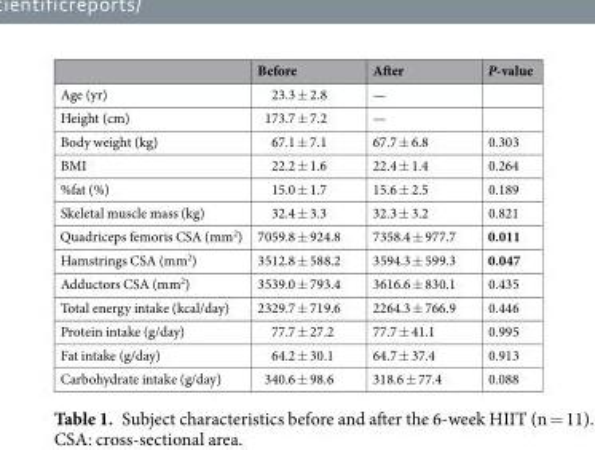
<table><thead><tr><td></td><td>Before</td><td>After</td><td>P-value</td></tr></thead><tbody><tr><td>Age (yr)</td><td>23.3 ± 2.8</td><td>—</td><td></td></tr><tr><td>Height (cm)</td><td>173.7 ± 7.2</td><td>—</td><td></td></tr><tr><td>Body weight (kg)</td><td>67.1 ± 7.1</td><td>67.7 ± 6.8</td><td>0.303</td></tr><tr><td>BMI</td><td>22.2 ± 1.6</td><td>22.4 ± 1.4</td><td>0.264</td></tr><tr><td>%fat (%)</td><td>15.0 ± 1.7</td><td>15.6 ± 2.5</td><td>0.189</td></tr><tr><td>Skeletal muscle mass (kg)</td><td>32.4 ± 3.3</td><td>32.3 ± 3.2</td><td>0.821</td></tr><tr><td>Quadriceps femoris CSA (mm<sup>2</sup>)</td><td>7059.8 ± 924.8</td><td>7358.4 ± 977.7</td><td>0.011</td></tr><tr><td>Hamstrings CSA (mm<sup>2</sup>)</td><td>3512.8 ± 588.2</td><td>3594.3 ± 599.3</td><td>0.047</td></tr><tr><td>Adductors CSA (mm<sup>2</sup>)</td><td>3539.0 ± 793.4</td><td>3616.6 ± 830.1</td><td>0.435</td></tr><tr><td>Total energy intake (kcal/day)</td><td>2329.7 ± 719.6</td><td>2264.3 ± 766.9</td><td>0.446</td></tr><tr><td>Protein intake (g/day)</td><td>77.7 ± 27.2</td><td>77.7 ± 41.1</td><td>0.995</td></tr><tr><td>Fat intake (g/day)</td><td>64.2 ± 30.1</td><td>64.7 ± 37.4</td><td>0.913</td></tr><tr><td>Carbohydrate intake (g/day)</td><td>340.6 ± 98.6</td><td>318.6 ± 77.4</td><td>0.088</td></tr></tbody></table>